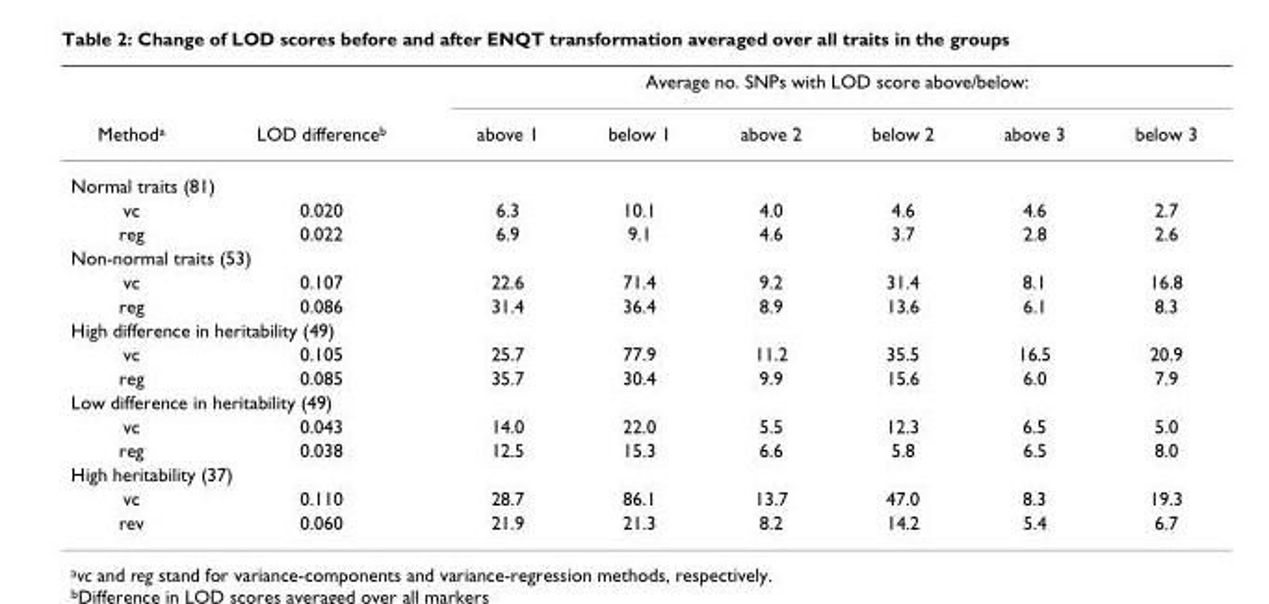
<table><thead><tr><td rowspan="2">Method<sup>a</sup></td><td rowspan="2">LOD difference<sup>b</sup></td><td colspan="6">Average no. SNPs with LOD score above/below:</td></tr><tr><td>above 1</td><td>below 1</td><td>above 2</td><td>below 2</td><td>above 3</td><td>below 3</td></tr></thead><tbody><tr><td colspan="8">Normal traits (81)</td></tr><tr><td>vc</td><td>0.020</td><td>6.3</td><td>10.1</td><td>4.0</td><td>4.6</td><td>4.6</td><td>2.7</td></tr><tr><td>reg</td><td>0.022</td><td>6.9</td><td>9.1</td><td>4.6</td><td>3.7</td><td>2.8</td><td>2.6</td></tr><tr><td colspan="8">Non-normal traits (53)</td></tr><tr><td>vc</td><td>0.107</td><td>22.6</td><td>71.4</td><td>9.2</td><td>31.4</td><td>8.1</td><td>16.8</td></tr><tr><td>reg</td><td>0.086</td><td>31.4</td><td>36.4</td><td>8.9</td><td>13.6</td><td>6.1</td><td>8.3</td></tr><tr><td colspan="8">High difference in heritability (49)</td></tr><tr><td>vc</td><td>0.105</td><td>25.7</td><td>77.9</td><td>11.2</td><td>35.5</td><td>16.5</td><td>20.9</td></tr><tr><td>reg</td><td>0.085</td><td>35.7</td><td>30.4</td><td>9.9</td><td>15.6</td><td>6.0</td><td>7.9</td></tr><tr><td colspan="8">Low difference in heritability (49)</td></tr><tr><td>vc</td><td>0.043</td><td>14.0</td><td>22.0</td><td>5.5</td><td>12.3</td><td>6.5</td><td>5.0</td></tr><tr><td>reg</td><td>0.038</td><td>12.5</td><td>15.3</td><td>6.6</td><td>5.8</td><td>6.5</td><td>8.0</td></tr><tr><td colspan="8">High heritability (37)</td></tr><tr><td>vc</td><td>0.110</td><td>28.7</td><td>86.1</td><td>13.7</td><td>47.0</td><td>8.3</td><td>19.3</td></tr><tr><td>rev</td><td>0.060</td><td>21.9</td><td>21.3</td><td>8.2</td><td>14.2</td><td>5.4</td><td>6.7</td></tr></tbody></table>